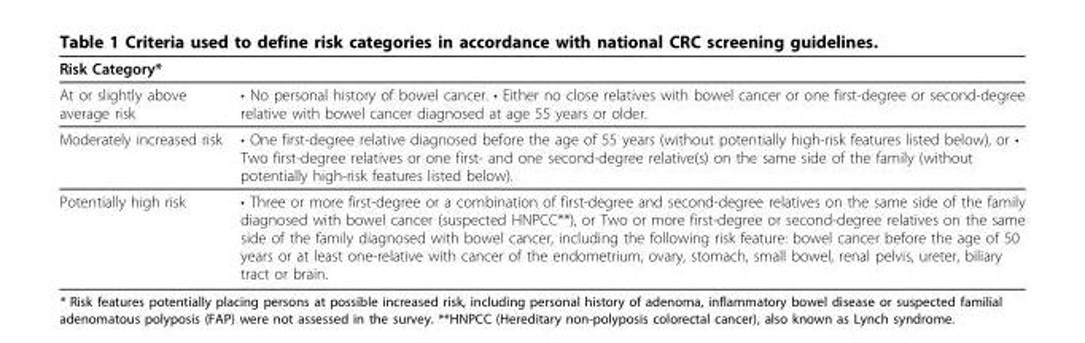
<table><thead><tr><td>Risk Category*</td><td></td></tr></thead><tbody><tr><td>At or slightly above average risk</td><td>• No personal history of bowel cancer. • Either no close relatives with bowel cancer or one first-degree or second-degree relative with bowel cancer diagnosed at age 55 years or older.</td></tr><tr><td>Moderately increased risk</td><td>• One first-degree relative diagnosed before the age of 55 years (without potentially high-risk features listed below), or • Two first-degree relatives or one first- and one second-degree relative(s) on the same side of the family (without potentially high-risk features listed below).</td></tr><tr><td>Potentially high risk</td><td>• Three or more first-degree or a combination of first-degree and second-degree relatives on the same side of the family diagnosed with bowel cancer (suspected HNPCC**), or Two or more first-degree or second-degree relatives on the same side of the family diagnosed with bowel cancer, including the following risk feature: bowel cancer before the age of 50 years or at least one-relative with cancer of the endometrium, ovary, stomach, small bowel, renal pelvis, ureter, biliary tract or brain.</td></tr></tbody></table>